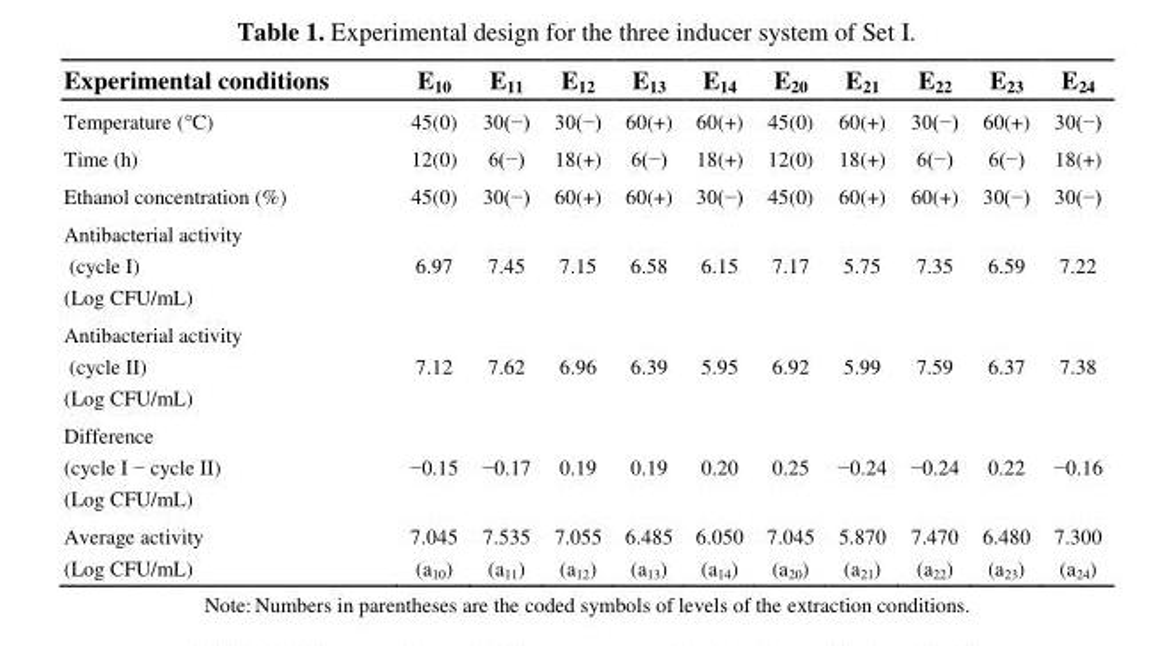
<table><thead><tr><td>Experimental conditions</td><td>E<sub>10</sub></td><td>E<sub>11</sub></td><td>E<sub>12</sub></td><td>E<sub>13</sub></td><td>E<sub>14</sub></td><td>E<sub>20</sub></td><td>E<sub>21</sub></td><td>E<sub>22</sub></td><td>E<sub>23</sub></td><td>E<sub>24</sub></td></tr></thead><tbody><tr><td>Temperature (°C)</td><td>45(0)</td><td>30(−)</td><td>30(−)</td><td>60(+)</td><td>60(+)</td><td>45(0)</td><td>60(+)</td><td>30(−)</td><td>60(+)</td><td>30(−)</td></tr><tr><td>Time (h)</td><td>12(0)</td><td>6(−)</td><td>18(+)</td><td>6(−)</td><td>18(+)</td><td>12(0)</td><td>18(+)</td><td>6(−)</td><td>6(−)</td><td>18(+)</td></tr><tr><td>Ethanol concentration (%)</td><td>45(0)</td><td>30(−)</td><td>60(+)</td><td>60(+)</td><td>30(−)</td><td>45(0)</td><td>60(+)</td><td>60(+)</td><td>30(−)</td><td>30(−)</td></tr><tr><td>Antibacterial activity (cycle I) (Log CFU/mL)</td><td>6.97</td><td>7.45</td><td>7.15</td><td>6.58</td><td>6.15</td><td>7.17</td><td>5.75</td><td>7.35</td><td>6.59</td><td>7.22</td></tr><tr><td>Antibacterial activity (cycle II) (Log CFU/mL)</td><td>7.12</td><td>7.62</td><td>6.96</td><td>6.39</td><td>5.95</td><td>6.92</td><td>5.99</td><td>7.59</td><td>6.37</td><td>7.38</td></tr><tr><td>Difference (cycle I − cycle II) (Log CFU/mL)</td><td>−0.15</td><td>−0.17</td><td>0.19</td><td>0.19</td><td>0.20</td><td>0.25</td><td>−0.24</td><td>−0.24</td><td>0.22</td><td>−0.16</td></tr><tr><td>Average activity (Log CFU/mL)</td><td>7.045 (a<sub>10</sub>)</td><td>7.535 (a<sub>11</sub>)</td><td>7.055 (a<sub>12</sub>)</td><td>6.485 (a<sub>13</sub>)</td><td>6.050 (a<sub>14</sub>)</td><td>7.045 (a<sub>20</sub>)</td><td>5.870 (a<sub>21</sub>)</td><td>7.470 (a<sub>22</sub>)</td><td>6.480 (a<sub>23</sub>)</td><td>7.300 (a<sub>24</sub>)</td></tr></tbody></table>